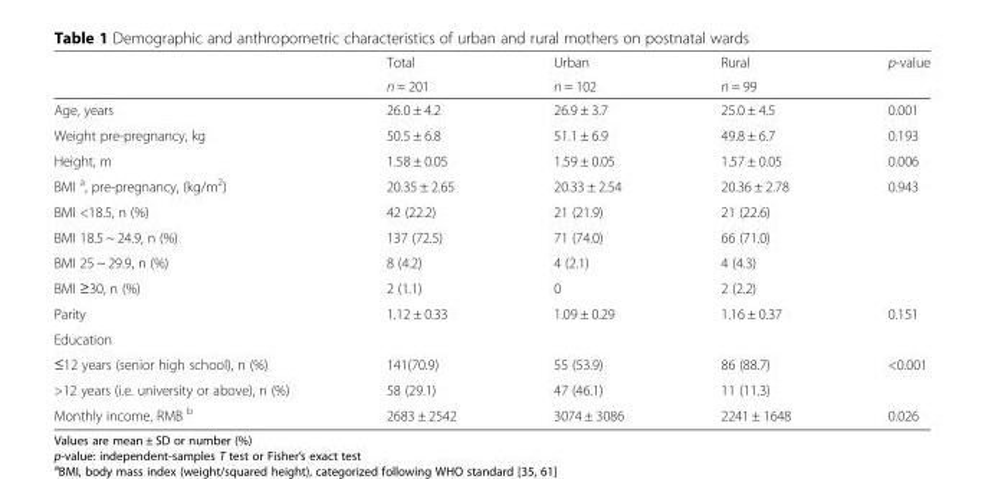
<table><thead><tr><td rowspan="2"></td><td rowspan="2">Total n = 201</td><td rowspan="2">Urban n = 102</td><td rowspan="2">Rural n = 99</td><td rowspan="2">p-value</td></tr><tr></tr></thead><tbody><tr><td>Age, years</td><td>26.0 ± 4.2</td><td>26.9 ± 3.7</td><td>25.0 ± 4.5</td><td>0.001</td></tr><tr><td>Weight pre-pregnancy, kg</td><td>50.5 ± 6.8</td><td>51.1 ± 6.9</td><td>49.8 ± 6.7</td><td>0.193</td></tr><tr><td>Height, m</td><td>1.58 ± 0.05</td><td>1.59 ± 0.05</td><td>1.57 ± 0.05</td><td>0.006</td></tr><tr><td>BMI <sup>a</sup>, pre-pregnancy, (kg/m<sup>2</sup>)</td><td>20.35 ± 2.65</td><td>20.33 ± 2.54</td><td>20.36 ± 2.78</td><td>0.943</td></tr><tr><td>BMI &lt;18.5, n (%)</td><td>42 (22.2)</td><td>21 (21.9)</td><td>21 (22.6)</td><td></td></tr><tr><td>BMI 18.5 ~ 24.9, n (%)</td><td>137 (72.5)</td><td>71 (74.0)</td><td>66 (71.0)</td><td></td></tr><tr><td>BMI 25 ~ 29.9, n (%)</td><td>8 (4.2)</td><td>4 (2.1)</td><td>4 (4.3)</td><td></td></tr><tr><td>BMI ≥30, n (%)</td><td>2 (1.1)</td><td>0</td><td>2 (2.2)</td><td></td></tr><tr><td>Parity</td><td>1.12 ± 0.33</td><td>1.09 ± 0.29</td><td>1.16 ± 0.37</td><td>0.151</td></tr><tr><td colspan="5">Education</td></tr><tr><td>≤12 years (senior high school), n (%)</td><td>141(70.9)</td><td>55 (53.9)</td><td>86 (88.7)</td><td>&lt;0.001</td></tr><tr><td>&gt;12 years (i.e. university or above), n (%)</td><td>58 (29.1)</td><td>47 (46.1)</td><td>11 (11.3)</td><td></td></tr><tr><td>Monthly income, RMB <sup>b</sup></td><td>2683 ± 2542</td><td>3074 ± 3086</td><td>2241 ± 1648</td><td>0.026</td></tr></tbody></table>